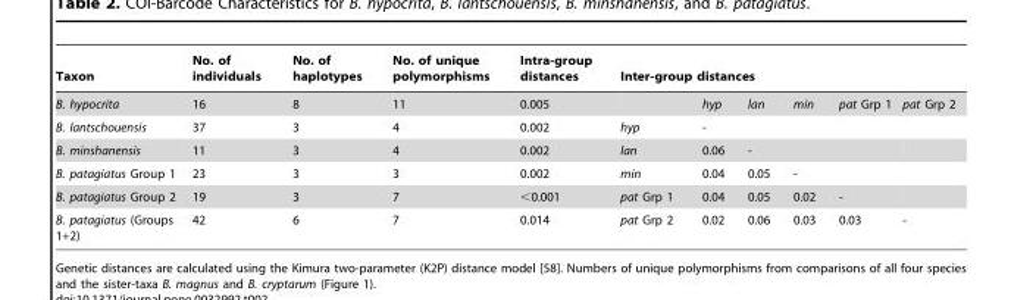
<table><thead><tr><td rowspan="2">Taxon B. hypocrita</td><td rowspan="2">No. of individuals 16</td><td rowspan="2">No. of haplotypes 8</td><td rowspan="2">No. of unique polymorphisms 11</td><td rowspan="2">Intra-group distances 0.005</td><td colspan="6">Inter-group distances</td></tr><tr><td></td><td>hyp</td><td>lan</td><td>min</td><td>pat Grp 1</td><td>pat Grp 2</td></tr></thead><tbody><tr><td>B. lantschouensis</td><td>37</td><td>3</td><td>4</td><td>0.002</td><td>hyp</td><td>-</td><td></td><td></td><td></td><td></td></tr><tr><td>B. minshanensis</td><td>11</td><td>3</td><td>4</td><td>0.002</td><td>lan</td><td>0.06</td><td>-</td><td></td><td></td><td></td></tr><tr><td>B. patagiatus Group 1</td><td>23</td><td>3</td><td>3</td><td>0.002</td><td>min</td><td>0.04</td><td>0.05</td><td>-</td><td></td><td></td></tr><tr><td>B. patagiatus Group 2</td><td>19</td><td>3</td><td>7</td><td>&lt;0.001</td><td>pat Grp 1</td><td>0.04</td><td>0.05</td><td>0.02</td><td>-</td><td></td></tr><tr><td>B. patagiatus (Groups 1+2)</td><td>42</td><td>6</td><td>7</td><td>0.014</td><td>pat Grp 2</td><td>0.02</td><td>0.06</td><td>0.03</td><td>0.03</td><td>-</td></tr></tbody></table>